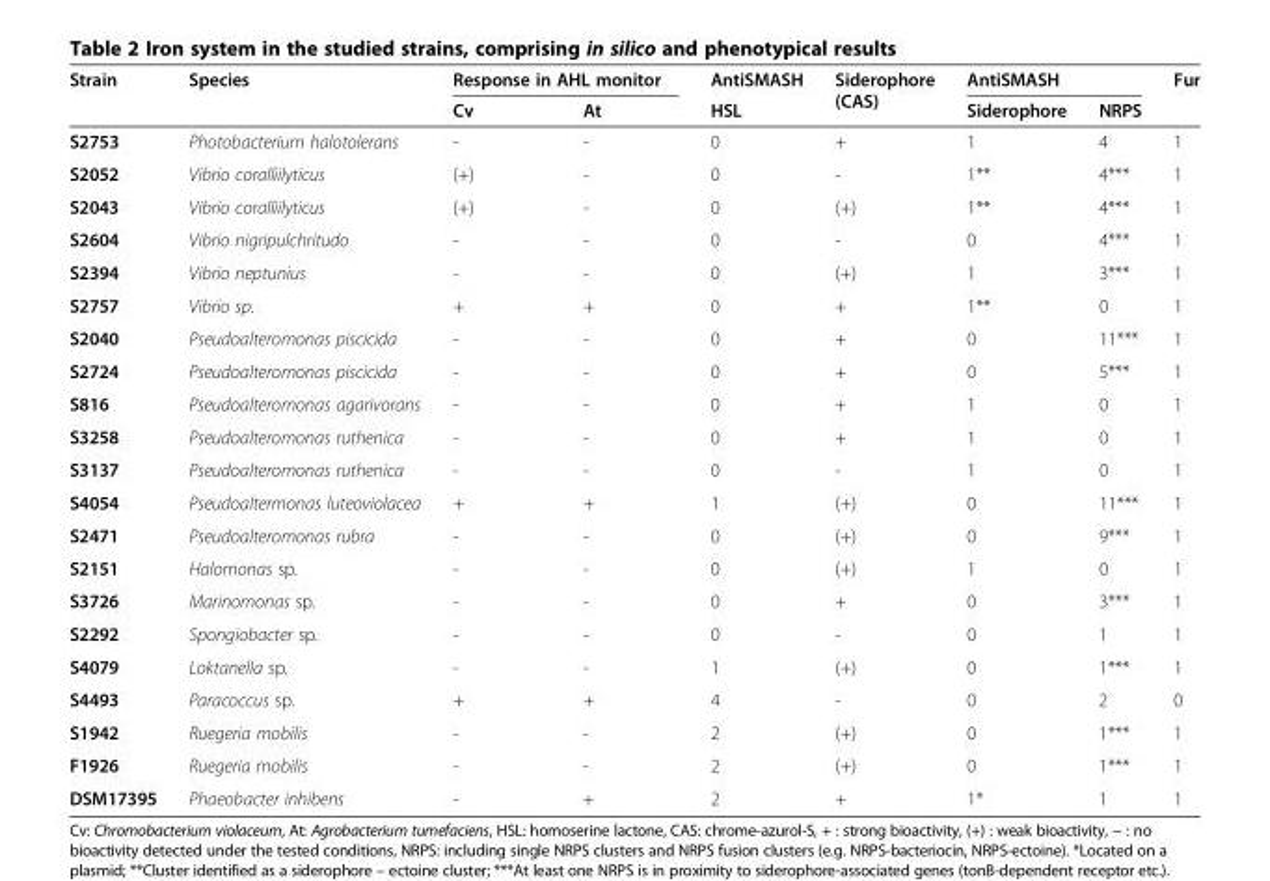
<table><thead><tr><td rowspan="2">Strain</td><td rowspan="2">Species</td><td colspan="2">Response in AHL monitor</td><td rowspan="2">AntiSMASH HSL</td><td rowspan="2">Siderophore (CAS)</td><td colspan="2">AntiSMASH</td><td rowspan="2">Fur</td></tr><tr><td>Cv</td><td>At</td><td>Siderophore</td><td>NRPS</td></tr></thead><tbody><tr><td>S2753</td><td>Photobacterium halotolerans</td><td>-</td><td>-</td><td>0</td><td>+</td><td>1</td><td>4</td><td>1</td></tr><tr><td>S2052</td><td>Vibrio coralliilyticus</td><td>(+)</td><td>-</td><td>0</td><td>-</td><td>1**</td><td>4***</td><td>1</td></tr><tr><td>S2043</td><td>Vibrio coralliilyticus</td><td>(+)</td><td>-</td><td>0</td><td>(+)</td><td>1**</td><td>4***</td><td>1</td></tr><tr><td>S2604</td><td>Vibrio nigripulchritudo</td><td>-</td><td>-</td><td>0</td><td>-</td><td>0</td><td>4***</td><td>1</td></tr><tr><td>S2394</td><td>Vibrio neptunius</td><td>-</td><td>-</td><td>0</td><td>(+)</td><td>1</td><td>3***</td><td>1</td></tr><tr><td>S2757</td><td>Vibrio sp.</td><td>+</td><td>+</td><td>0</td><td>+</td><td>1**</td><td>0</td><td>1</td></tr><tr><td>S2040</td><td>Pseudoalteromonas piscicida</td><td>-</td><td>-</td><td>0</td><td>+</td><td>0</td><td>11***</td><td>1</td></tr><tr><td>S2724</td><td>Pseudoalteromonas piscicida</td><td>-</td><td>-</td><td>0</td><td>+</td><td>0</td><td>5***</td><td>1</td></tr><tr><td>S816</td><td>Pseudoalteromonas agarivorans</td><td>-</td><td>-</td><td>0</td><td>+</td><td>1</td><td>0</td><td>1</td></tr><tr><td>S3258</td><td>Pseudoalteromonas ruthenica</td><td>-</td><td>-</td><td>0</td><td>+</td><td>1</td><td>0</td><td>1</td></tr><tr><td>S3137</td><td>Pseudoalteromonas ruthenica</td><td>-</td><td>-</td><td>0</td><td>-</td><td>1</td><td>0</td><td>1</td></tr><tr><td>S4054</td><td>Pseudoaltermonas luteoviolacea</td><td>+</td><td>+</td><td>1</td><td>(+)</td><td>0</td><td>11***</td><td>1</td></tr><tr><td>S2471</td><td>Pseudoalteromonas rubra</td><td>-</td><td>-</td><td>0</td><td>(+)</td><td>0</td><td>9***</td><td>1</td></tr><tr><td>S2151</td><td>Halomonas sp.</td><td>-</td><td>-</td><td>0</td><td>(+)</td><td>1</td><td>0</td><td>1</td></tr><tr><td>S3726</td><td>Marinomonas sp.</td><td>-</td><td>-</td><td>0</td><td>+</td><td>0</td><td>3***</td><td>1</td></tr><tr><td>S2292</td><td>Spongiobacter sp.</td><td>-</td><td>-</td><td>0</td><td>-</td><td>0</td><td>1</td><td>1</td></tr><tr><td>S4079</td><td>Loktanella sp.</td><td>-</td><td>-</td><td>1</td><td>(+)</td><td>0</td><td>1***</td><td>1</td></tr><tr><td>S4493</td><td>Paracoccus sp.</td><td>+</td><td>+</td><td>4</td><td>-</td><td>0</td><td>2</td><td>0</td></tr><tr><td>S1942</td><td>Ruegeria mobilis</td><td>-</td><td>-</td><td>2</td><td>(+)</td><td>0</td><td>1***</td><td>1</td></tr><tr><td>F1926</td><td>Ruegeria mobilis</td><td>-</td><td>-</td><td>2</td><td>(+)</td><td>0</td><td>1***</td><td>1</td></tr><tr><td>DSM17395</td><td>Phaeobacter inhibens</td><td>-</td><td>+</td><td>2</td><td>+</td><td>1*</td><td>1</td><td>1</td></tr></tbody></table>